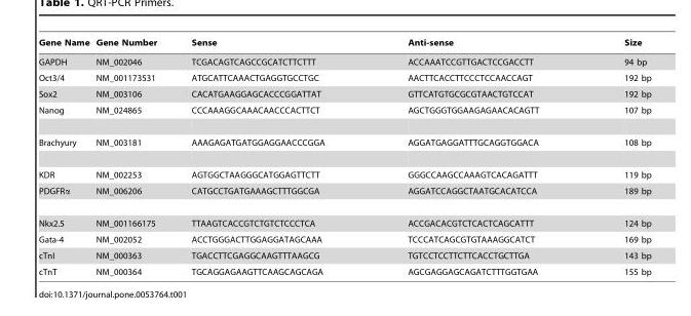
<table><thead><tr><td>Gene Name</td><td>Gene Number</td><td>Sense</td><td>Anti-sense</td><td>Size</td></tr></thead><tbody><tr><td>GAPDH</td><td>NM_002046</td><td>TCGACAGTCAGCCGCATCTTCTTT</td><td>ACCAAATCCGTTGACTCCGACCTT</td><td>94 bp</td></tr><tr><td>Oct3/4</td><td>NM_001173531</td><td>ATGCATTCAAACTGAGGTGCCTGC</td><td>AACTTCACCTTCCCTCCAACCAGT</td><td>192 bp</td></tr><tr><td>Sox2</td><td>NM_003106</td><td>CACATGAAGGAGCACCCGGATTAT</td><td>GTTCATGTGCGCGTAACTGTCCAT</td><td>192 bp</td></tr><tr><td>Nanog</td><td>NM_024865</td><td>CCCAAAGGCAAACAACCCACTTCT</td><td>AGCTGGGTGGAAGAGAACACAGTT</td><td>107 bp</td></tr><tr><td>Brachyury</td><td>NM_003181</td><td>AAAGAGATGATGGAGGAACCCGGA</td><td>AGGATGAGGATTTGCAGGTGGACA</td><td>108 bp</td></tr><tr><td>KDR</td><td>NM_002253</td><td>AGTGGCTAAGGGCATGGAGTTCTT</td><td>GGGCCAAGCCAAAGTCACAGATTT</td><td>119 bp</td></tr><tr><td>PDGFRα</td><td>NM_006206</td><td>CATGCCTGATGAAAGCTTTGGCGA</td><td>AGGATCCAGGCTAATGCACATCCA</td><td>189 bp</td></tr><tr><td>Nkx2.5</td><td>NM_001166175</td><td>TTAAGTCACCGTCTGTCTCCCTCA</td><td>ACCGACACGTCTCACTCAGCATTT</td><td>124 bp</td></tr><tr><td>Gata-4</td><td>NM_002052</td><td>ACCTGGGACTTGGAGGATAGCAAA</td><td>TCCCATCAGCGTGTAAAGGCATCT</td><td>169 bp</td></tr><tr><td>cTnI</td><td>NM_000363</td><td>TGACCTTCGAGGCAAGTTTAAGCG</td><td>TGTCCTCCTTCTTCACCTGCTTGA</td><td>143 bp</td></tr><tr><td>cTnT</td><td>NM_000364</td><td>TGCAGGAGAAGTTCAAGCAGCAGA</td><td>AGCGAGGAGCAGATCTTTGGTGAA</td><td>155 bp</td></tr></tbody></table>